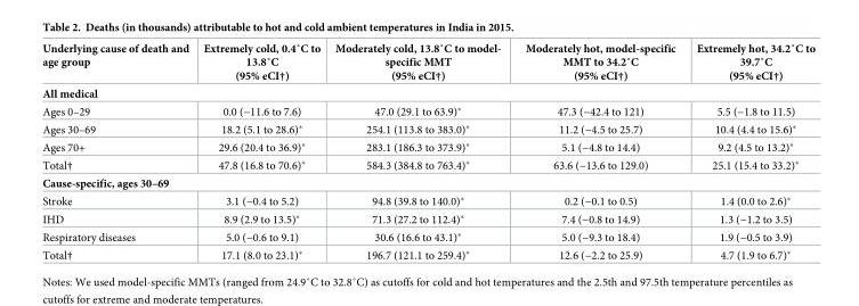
<table><thead><tr><td>Underlying cause of death and age group</td><td>Extremely cold, 0.4˚C to 13.8˚C (95% eCI†)</td><td>Moderately cold, 13.8˚C to model- specific MMT (95% eCI†)</td><td>Moderately hot, model-specific MMT to 34.2˚C (95% eCI†)</td><td>Extremely hot, 34.2˚C to 39.7˚C (95% eCI†)</td></tr></thead><tbody><tr><td colspan="5">All medical</td></tr><tr><td>Ages 0–29</td><td>0.0 (−11.6 to 7.6)</td><td>47.0 (29.1 to 63.9)*</td><td>47.3 (−42.4 to 121)</td><td>5.5 (−1.8 to 11.5)</td></tr><tr><td>Ages 30–69</td><td>18.2 (5.1 to 28.6)*</td><td>254.1 (113.8 to 383.0)*</td><td>11.2 (−4.5 to 25.7)</td><td>10.4 (4.4 to 15.6)*</td></tr><tr><td>Ages 70+</td><td>29.6 (20.4 to 36.9)*</td><td>283.1 (186.3 to 373.9)*</td><td>5.1 (−4.8 to 14.4)</td><td>9.2 (4.5 to 13.2)*</td></tr><tr><td>Total†</td><td>47.8 (16.8 to 70.6)*</td><td>584.3 (384.8 to 763.4)*</td><td>63.6 (−13.6 to 129.0)</td><td>25.1 (15.4 to 33.2)*</td></tr><tr><td colspan="5">Cause-specific, ages 30–69</td></tr><tr><td>Stroke</td><td>3.1 (−0.4 to 5.2)</td><td>94.8 (39.8 to 140.0)*</td><td>0.2 (−0.1 to 0.5)</td><td>1.4 (0.0 to 2.6)*</td></tr><tr><td>IHD</td><td>8.9 (2.9 to 13.5)*</td><td>71.3 (27.2 to 112.4)*</td><td>7.4 (−0.8 to 14.9)</td><td>1.3 (−1.2 to 3.5)</td></tr><tr><td>Respiratory diseases</td><td>5.0 (−0.6 to 9.1)</td><td>30.6 (16.6 to 43.1)*</td><td>5.0 (−9.3 to 18.4)</td><td>1.9 (−0.5 to 3.9)</td></tr><tr><td>Total†</td><td>17.1 (8.0 to 23.1)*</td><td>196.7 (121.1 to 259.4)*</td><td>12.6 (−2.2 to 25.9)</td><td>4.7 (1.9 to 6.7)*</td></tr></tbody></table>